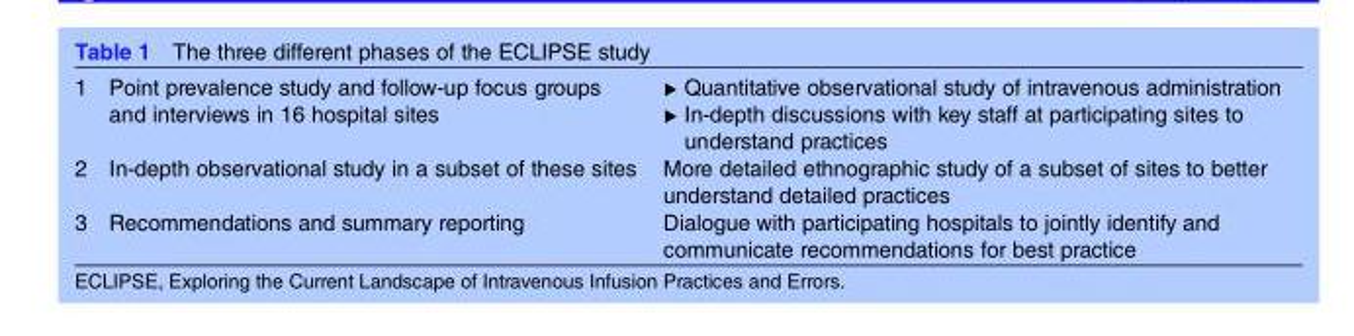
<table><tbody><tr><td>1</td><td>Point prevalence study and follow-up focus groups and interviews in 16 hospital sites</td><td>▸ Quantitative observational study of intravenous administration ▸ In-depth discussions with key staff at participating sites to understand practices</td></tr><tr><td>2</td><td>In-depth observational study in a subset of these sites</td><td>More detailed ethnographic study of a subset of sites to better understand detailed practices</td></tr><tr><td>3</td><td>Recommendations and summary reporting</td><td>Dialogue with participating hospitals to jointly identify and communicate recommendations for best practice</td></tr></tbody></table>